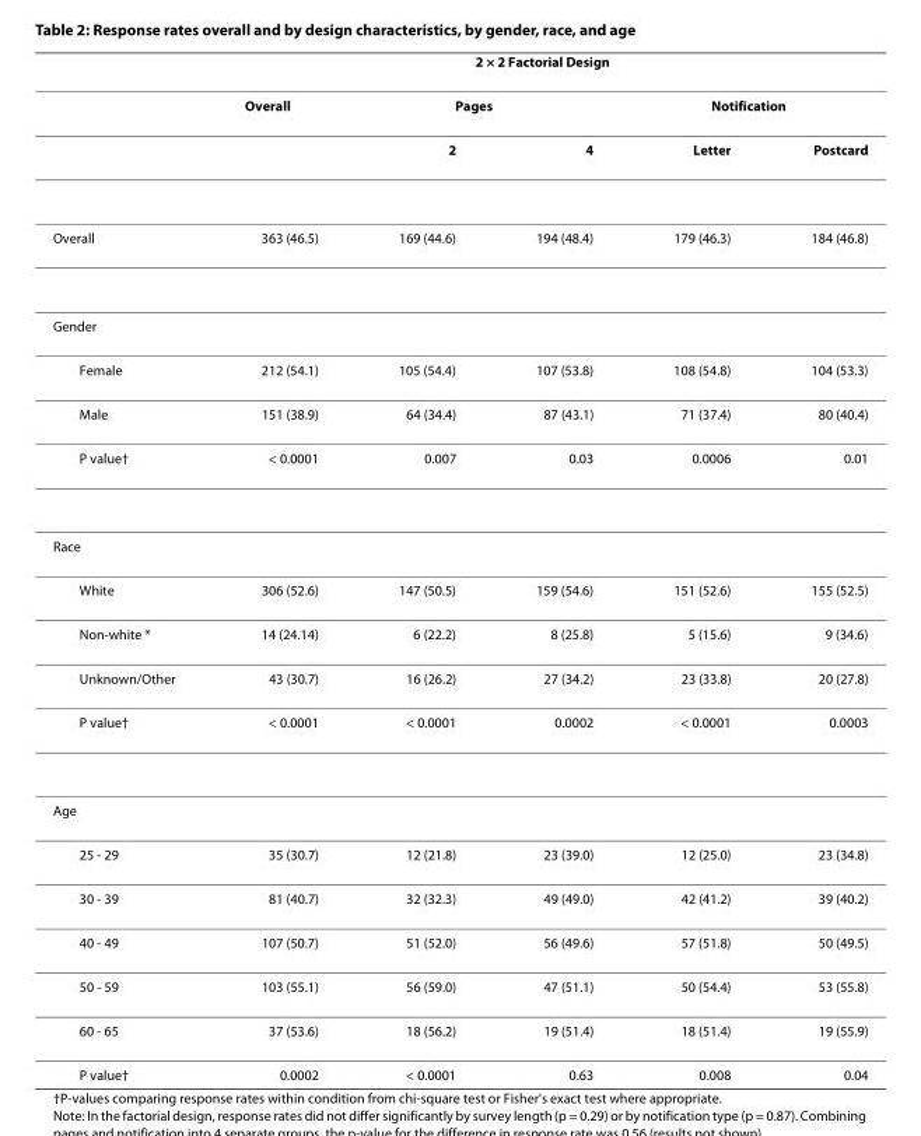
<table><thead><tr><td rowspan="3"></td><td colspan="5">2 × 2 Factorial Design</td></tr><tr><td rowspan="2">Overall</td><td colspan="2">Pages</td><td colspan="2">Notification</td></tr><tr><td>2</td><td>4</td><td>Letter</td><td>Postcard</td></tr></thead><tbody><tr><td>Overall</td><td>363 (46.5)</td><td>169 (44.6)</td><td>194 (48.4)</td><td>179 (46.3)</td><td>184 (46.8)</td></tr><tr><td colspan="6">Gender</td></tr><tr><td>Female</td><td>212 (54.1)</td><td>105 (54.4)</td><td>107 (53.8)</td><td>108 (54.8)</td><td>104 (53.3)</td></tr><tr><td>Male</td><td>151 (38.9)</td><td>64 (34.4)</td><td>87 (43.1)</td><td>71 (37.4)</td><td>80 (40.4)</td></tr><tr><td>P value†</td><td>&lt; 0.0001</td><td>0.007</td><td>0.03</td><td>0.0006</td><td>0.01</td></tr><tr><td colspan="6">Race</td></tr><tr><td>White</td><td>306 (52.6)</td><td>147 (50.5)</td><td>159 (54.6)</td><td>151 (52.6)</td><td>155 (52.5)</td></tr><tr><td>Non-white *</td><td>14 (24.14)</td><td>6 (22.2)</td><td>8 (25.8)</td><td>5 (15.6)</td><td>9 (34.6)</td></tr><tr><td>Unknown/Other</td><td>43 (30.7)</td><td>16 (26.2)</td><td>27 (34.2)</td><td>23 (33.8)</td><td>20 (27.8)</td></tr><tr><td>P value†</td><td>&lt; 0.0001</td><td>&lt; 0.0001</td><td>0.0002</td><td>&lt; 0.0001</td><td>0.0003</td></tr><tr><td colspan="6">Age</td></tr><tr><td>25 - 29</td><td>35 (30.7)</td><td>12 (21.8)</td><td>23 (39.0)</td><td>12 (25.0)</td><td>23 (34.8)</td></tr><tr><td>30 - 39</td><td>81 (40.7)</td><td>32 (32.3)</td><td>49 (49.0)</td><td>42 (41.2)</td><td>39 (40.2)</td></tr><tr><td>40 - 49</td><td>107 (50.7)</td><td>51 (52.0)</td><td>56 (49.6)</td><td>57 (51.8)</td><td>50 (49.5)</td></tr><tr><td>50 - 59</td><td>103 (55.1)</td><td>56 (59.0)</td><td>47 (51.1)</td><td>50 (54.4)</td><td>53 (55.8)</td></tr><tr><td>60 - 65</td><td>37 (53.6)</td><td>18 (56.2)</td><td>19 (51.4)</td><td>18 (51.4)</td><td>19 (55.9)</td></tr><tr><td>P value†</td><td>0.0002</td><td>&lt; 0.0001</td><td>0.63</td><td>0.008</td><td>0.04</td></tr></tbody></table>